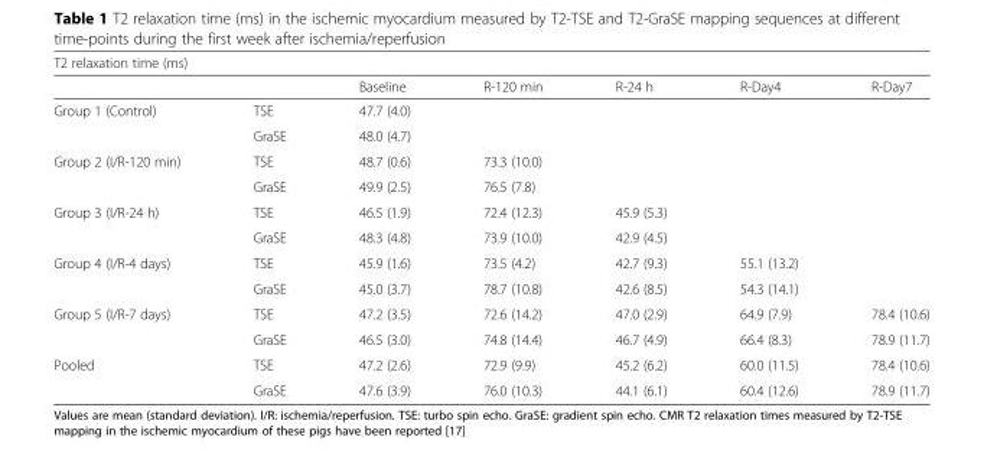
<table><thead><tr><td colspan="7">T2 relaxation time (ms)</td></tr><tr><td></td><td></td><td>Baseline</td><td>R-120 min</td><td>R-24 h</td><td>R-Day4</td><td>R-Day7</td></tr></thead><tbody><tr><td rowspan="2">Group 1 (Control)</td><td>TSE</td><td>47.7 (4.0)</td><td></td><td></td><td></td><td></td></tr><tr><td>GraSE</td><td>48.0 (4.7)</td><td></td><td></td><td></td><td></td></tr><tr><td rowspan="2">Group 2 (I/R-120 min)</td><td>TSE</td><td>48.7 (0.6)</td><td>73.3 (10.0)</td><td></td><td></td><td></td></tr><tr><td>GraSE</td><td>49.9 (2.5)</td><td>76.5 (7.8)</td><td></td><td></td><td></td></tr><tr><td rowspan="2">Group 3 (I/R-24 h)</td><td>TSE</td><td>46.5 (1.9)</td><td>72.4 (12.3)</td><td>45.9 (5.3)</td><td></td><td></td></tr><tr><td>GraSE</td><td>48.3 (4.8)</td><td>73.9 (10.0)</td><td>42.9 (4.5)</td><td></td><td></td></tr><tr><td rowspan="2">Group 4 (I/R-4 days)</td><td>TSE</td><td>45.9 (1.6)</td><td>73.5 (4.2)</td><td>42.7 (9.3)</td><td>55.1 (13.2)</td><td></td></tr><tr><td>GraSE</td><td>45.0 (3.7)</td><td>78.7 (10.8)</td><td>42.6 (8.5)</td><td>54.3 (14.1)</td><td></td></tr><tr><td rowspan="2">Group 5 (I/R-7 days)</td><td>TSE</td><td>47.2 (3.5)</td><td>72.6 (14.2)</td><td>47.0 (2.9)</td><td>64.9 (7.9)</td><td>78.4 (10.6)</td></tr><tr><td>GraSE</td><td>46.5 (3.0)</td><td>74.8 (14.4)</td><td>46.7 (4.9)</td><td>66.4 (8.3)</td><td>78.9 (11.7)</td></tr><tr><td rowspan="2">Pooled</td><td>TSE</td><td>47.2 (2.6)</td><td>72.9 (9.9)</td><td>45.2 (6.2)</td><td>60.0 (11.5)</td><td>78.4 (10.6)</td></tr><tr><td>GraSE</td><td>47.6 (3.9)</td><td>76.0 (10.3)</td><td>44.1 (6.1)</td><td>60.4 (12.6)</td><td>78.9 (11.7)</td></tr></tbody></table>